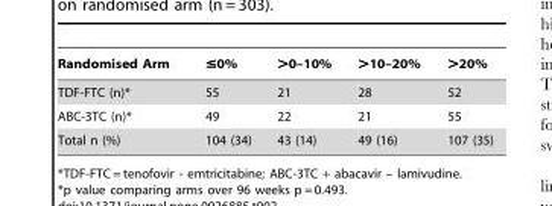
<table><thead><tr><td>Randomised Arm</td><td>≤0%</td><td>&gt;0–10%</td><td>&gt;10–20%</td><td>&gt;20%</td></tr></thead><tbody><tr><td>TDF-FTC (n)*</td><td>55</td><td>21</td><td>28</td><td>52</td></tr><tr><td>ABC-3TC (n)*</td><td>49</td><td>22</td><td>21</td><td>55</td></tr><tr><td>Total n (%)</td><td>104 (34)</td><td>43 (14)</td><td>49 (16)</td><td>107 (35)</td></tr></tbody></table>